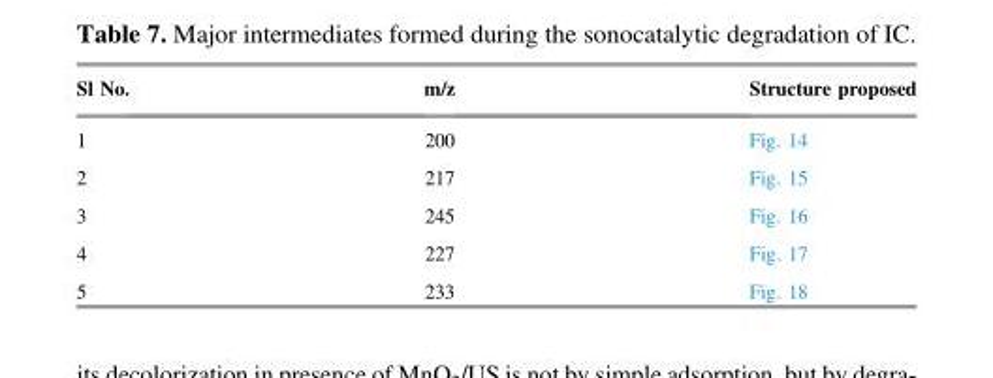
<table><thead><tr><td>Sl No.</td><td>m/z</td><td>Structure proposed</td></tr></thead><tbody><tr><td>1</td><td>200</td><td>Fig. 14</td></tr><tr><td>2</td><td>217</td><td>Fig. 15</td></tr><tr><td>3</td><td>245</td><td>Fig. 16</td></tr><tr><td>4</td><td>227</td><td>Fig. 17</td></tr><tr><td>5</td><td>233</td><td>Fig. 18</td></tr></tbody></table>